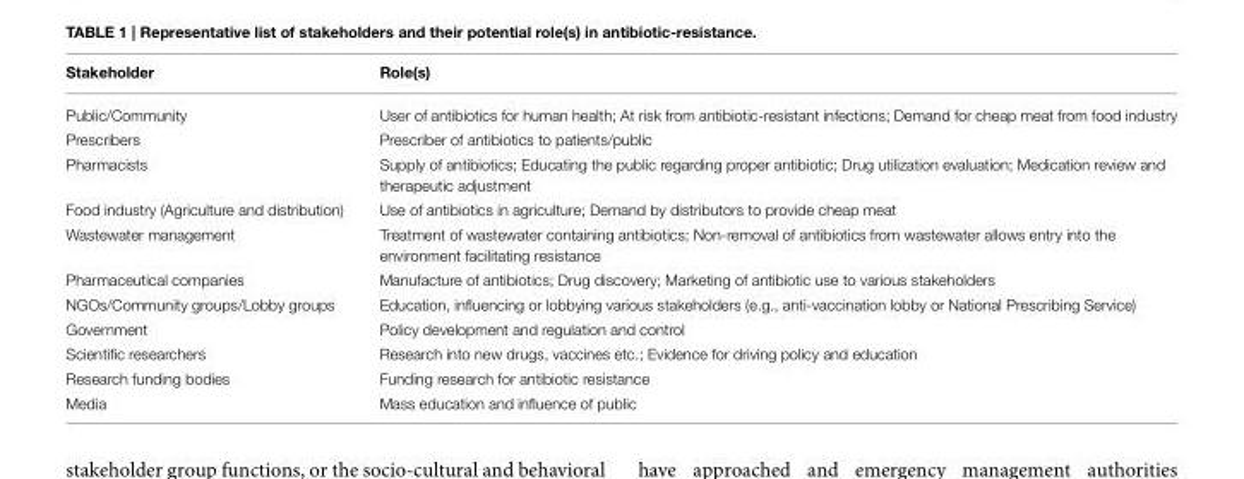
<table><thead><tr><td>Stakeholder</td><td>Role(s)</td></tr></thead><tbody><tr><td>Public/Community</td><td>User of antibiotics for human health; At risk from antibiotic-resistant infections; Demand for cheap meat from food industry</td></tr><tr><td>Prescribers</td><td>Prescriber of antibiotics to patients/public</td></tr><tr><td>Pharmacists</td><td>Supply of antibiotics; Educating the public regarding proper antibiotic; Drug utilization evaluation; Medication review and therapeutic adjustment</td></tr><tr><td>Food industry (Agriculture and distribution)</td><td>Use of antibiotics in agriculture; Demand by distributors to provide cheap meat</td></tr><tr><td>Wastewater management</td><td>Treatment of wastewater containing antibiotics; Non-removal of antibiotics from wastewater allows entry into the environment facilitating resistance</td></tr><tr><td>Pharmaceutical companies</td><td>Manufacture of antibiotics; Drug discovery; Marketing of antibiotic use to various stakeholders</td></tr><tr><td>NGOs/Community groups/Lobby groups</td><td>Education, influencing or lobbying various stakeholders (e.g., anti-vaccination lobby or National Prescribing Service)</td></tr><tr><td>Government</td><td>Policy development and regulation and control</td></tr><tr><td>Scientific researchers</td><td>Research into new drugs, vaccines etc.; Evidence for driving policy and education</td></tr><tr><td>Research funding bodies</td><td>Funding research for antibiotic resistance</td></tr><tr><td>Media</td><td>Mass education and influence of public</td></tr></tbody></table>